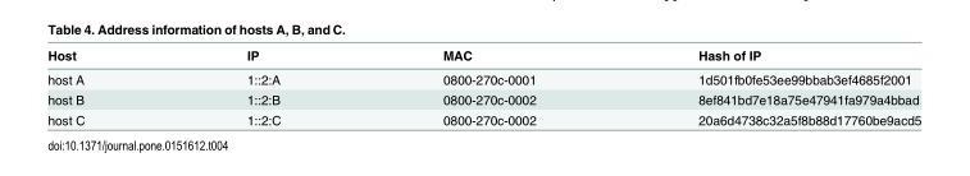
<table><thead><tr><td>Host</td><td>IP</td><td>MAC</td><td>Hash of IP</td></tr></thead><tbody><tr><td>host A</td><td>1::2:A</td><td>0800-270c-0001</td><td>1d501fb0fe53ee99bbab3ef4685f2001</td></tr><tr><td>host B</td><td>1::2:B</td><td>0800-270c-0002</td><td>8ef841bd7e18a75e47941fa979a4bbad</td></tr><tr><td>host C</td><td>1::2:C</td><td>0800-270c-0002</td><td>20a6d4738c32a5f8b88d17760be9acd5</td></tr></tbody></table>